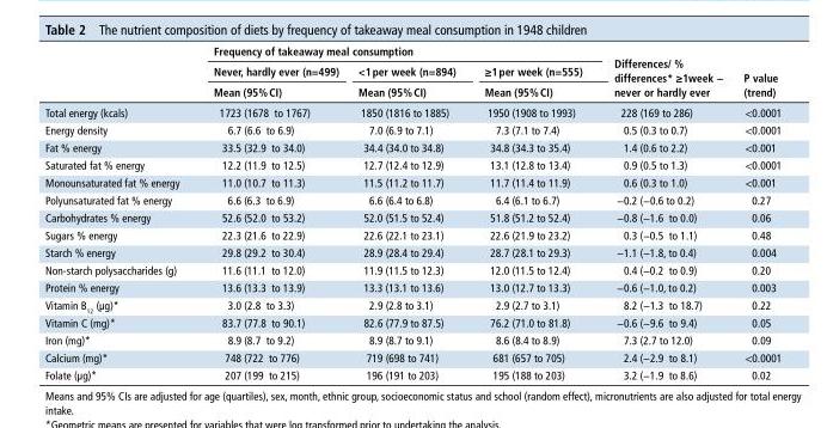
<table><thead><tr><td rowspan="3"></td><td colspan="3">Frequency of takeaway meal consumption</td><td rowspan="3">Differences/ % differences* ≥1week − never or hardly ever</td><td rowspan="3">P value (trend)</td></tr><tr><td rowspan="2">never, hardly ever (n=499) Mean (95% CI)</td><td rowspan="2">&lt;1 per week (n=894) Mean (95% CI)</td><td rowspan="2">≥1 per week (n=555) Mean (95% CI)</td></tr><tr></tr></thead><tbody><tr><td>Total energy (kcals)</td><td>1723 (1678 to 1767)</td><td>1850 (1816 to 1885)</td><td>1950 (1908 to 1993)</td><td>228 (169 to 286)</td><td>&lt;0.0001</td></tr><tr><td>Energy density</td><td>6.7 (6.6 to 6.9)</td><td>7.0 (6.9 to 7.1)</td><td>7.3 (7.1 to 7.4)</td><td>0.5 (0.3 to 0.7)</td><td>&lt;0.0001</td></tr><tr><td>Fat % energy</td><td>33.5 (32.9 to 34.0)</td><td>34.4 (34.0 to 34.8)</td><td>34.8 (34.3 to 35.4)</td><td>1.4 (0.6 to 2.2)</td><td>&lt;0.001</td></tr><tr><td>Saturated fat % energy</td><td>12.2 (11.9 to 12.5)</td><td>12.7 (12.4 to 12.9)</td><td>13.1 (12.8 to 13.4)</td><td>0.9 (0.5 to 1.3)</td><td>&lt;0.0001</td></tr><tr><td>Monounsaturated fat % energy</td><td>11.0 (10.7 to 11.3)</td><td>11.5 (11.2 to 11.7)</td><td>11.7 (11.4 to 11.9)</td><td>0.6 (0.3 to 1.0)</td><td>&lt;0.001</td></tr><tr><td>Polyunsaturated fat % energy</td><td>6.6 (6.3 to 6.9)</td><td>6.6 (6.4 to 6.8)</td><td>6.4 (6.1 to 6.7)</td><td>−0.2 (−0.6 to 0.2)</td><td>0.27</td></tr><tr><td>Carbohydrates % energy</td><td>52.6 (52.0 to 53.2)</td><td>52.0 (51.5 to 52.4)</td><td>51.8 (51.2 to 52.4)</td><td>−0.8 (−1.6 to 0.0)</td><td>0.06</td></tr><tr><td>Sugars % energy</td><td>22.3 (21.6 to 22.9)</td><td>22.6 (22.1 to 23.1)</td><td>22.6 (21.9 to 23.2)</td><td>0.3 (−0.5 to 1.1)</td><td>0.48</td></tr><tr><td>Starch % energy</td><td>29.8 (29.2 to 30.4)</td><td>28.9 (28.4 to 29.4)</td><td>28.7 (28.1 to 29.3)</td><td>−1.1 (−1.8, to 0.4)</td><td>0.004</td></tr><tr><td>Non-starch polysaccharides (g)</td><td>11.6 (11.1 to 12.0)</td><td>11.9 (11.5 to 12.3)</td><td>12.0 (11.5 to 12.4)</td><td>0.4 (−0.2 to 0.9)</td><td>0.20</td></tr><tr><td>Protein % energy</td><td>13.6 (13.3 to 13.9)</td><td>13.3 (13.1 to 13.6)</td><td>13.0 (12.7 to 13.3)</td><td>−0.6 (−1.0, to 0.2)</td><td>0.003</td></tr><tr><td>Vitamin B<sub>12</sub> (µg)*</td><td>3.0 (2.8 to 3.3)</td><td>2.9 (2.8 to 3.1)</td><td>2.9 (2.7 to 3.1)</td><td>8.2 (−1.3 to 18.7)</td><td>0.22</td></tr><tr><td>Vitamin C (mg)*</td><td>83.7 (77.8 to 90.1)</td><td>82.6 (77.9 to 87.5)</td><td>76.2 (71.0 to 81.8)</td><td>−0.6 (−9.6 to 9.4)</td><td>0.05</td></tr><tr><td>Iron (mg)*</td><td>8.9 (8.7 to 9.2)</td><td>8.9 (8.7 to 9.1)</td><td>8.6 (8.4 to 8.9)</td><td>7.3 (2.7 to 12.0)</td><td>0.09</td></tr><tr><td>Calcium (mg)*</td><td>748 (722 to 776)</td><td>719 (698 to 741)</td><td>681 (657 to 705)</td><td>2.4 (−2.9 to 8.1)</td><td>&lt;0.0001</td></tr><tr><td>Folate (µg)*</td><td>207 (199 to 215)</td><td>196 (191 to 203)</td><td>195 (188 to 203)</td><td>3.2 (−1.9 to 8.6)</td><td>0.02</td></tr></tbody></table>